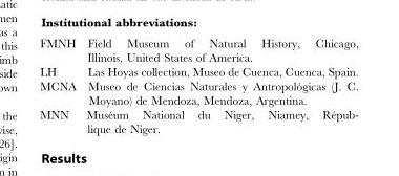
<table><tbody><tr><td>FMNH</td><td>Field Museum of Natural History, Chicago, Illinois, United States of America.</td></tr><tr><td>LH</td><td>Las Hoyas collection, Museo de Cuenca, Cuenca, Spain.</td></tr><tr><td>MCNA</td><td>Museo de Ciencias Naturales y Antropolo´gicas (J. C. Moyano) de Mendoza, Mendoza, Argentina.</td></tr><tr><td>MNN</td><td>Muse´um National du Niger, Niamey, Re´pub- lique de Niger.</td></tr></tbody></table>